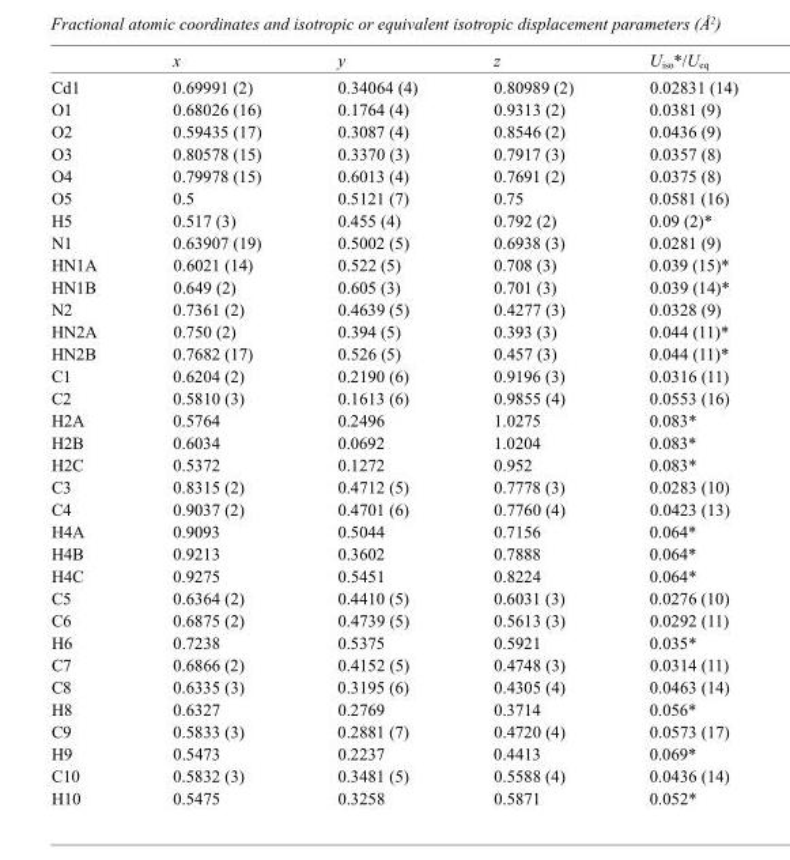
<table><thead><tr><td></td><td>x</td><td>y</td><td>z</td><td>U<sub>iso</sub>*/U<sub>eq</sub></td></tr></thead><tbody><tr><td>Cd1</td><td>0.69991 (2)</td><td>0.34064 (4)</td><td>0.80989 (2)</td><td>0.02831 (14)</td></tr><tr><td>O1</td><td>0.68026 (16)</td><td>0.1764 (4)</td><td>0.9313 (2)</td><td>0.0381 (9)</td></tr><tr><td>O2</td><td>0.59435 (17)</td><td>0.3087 (4)</td><td>0.8546 (2)</td><td>0.0436 (9)</td></tr><tr><td>O3</td><td>0.80578 (15)</td><td>0.3370 (3)</td><td>0.7917 (3)</td><td>0.0357 (8)</td></tr><tr><td>O4</td><td>0.79978 (15)</td><td>0.6013 (4)</td><td>0.7691 (2)</td><td>0.0375 (8)</td></tr><tr><td>O5</td><td>0.5</td><td>0.5121 (7)</td><td>0.75</td><td>0.0581 (16)</td></tr><tr><td>H5</td><td>0.517 (3)</td><td>0.455 (4)</td><td>0.792 (2)</td><td>0.09 (2)*</td></tr><tr><td>N1</td><td>0.63907 (19)</td><td>0.5002 (5)</td><td>0.6938 (3)</td><td>0.0281 (9)</td></tr><tr><td>HN1A</td><td>0.6021 (14)</td><td>0.522 (5)</td><td>0.708 (3)</td><td>0.039 (15)*</td></tr><tr><td>HN1B</td><td>0.649 (2)</td><td>0.605 (3)</td><td>0.701 (3)</td><td>0.039 (14)*</td></tr><tr><td>N2</td><td>0.7361 (2)</td><td>0.4639 (5)</td><td>0.4277 (3)</td><td>0.0328 (9)</td></tr><tr><td>HN2A</td><td>0.750 (2)</td><td>0.394 (5)</td><td>0.393 (3)</td><td>0.044 (11)*</td></tr><tr><td>HN2B</td><td>0.7682 (17)</td><td>0.526 (5)</td><td>0.457 (3)</td><td>0.044 (11)*</td></tr><tr><td>C1</td><td>0.6204 (2)</td><td>0.2190 (6)</td><td>0.9196 (3)</td><td>0.0316 (11)</td></tr><tr><td>C2</td><td>0.5810 (3)</td><td>0.1613 (6)</td><td>0.9855 (4)</td><td>0.0553 (16)</td></tr><tr><td>H2A</td><td>0.5764</td><td>0.2496</td><td>1.0275</td><td>0.083*</td></tr><tr><td>H2B</td><td>0.6034</td><td>0.0692</td><td>1.0204</td><td>0.083*</td></tr><tr><td>H2C</td><td>0.5372</td><td>0.1272</td><td>0.952</td><td>0.083*</td></tr><tr><td>C3</td><td>0.8315 (2)</td><td>0.4712 (5)</td><td>0.7778 (3)</td><td>0.0283 (10)</td></tr><tr><td>C4</td><td>0.9037 (2)</td><td>0.4701 (6)</td><td>0.7760 (4)</td><td>0.0423 (13)</td></tr><tr><td>H4A</td><td>0.9093</td><td>0.5044</td><td>0.7156</td><td>0.064*</td></tr><tr><td>H4B</td><td>0.9213</td><td>0.3602</td><td>0.7888</td><td>0.064*</td></tr><tr><td>H4C</td><td>0.9275</td><td>0.5451</td><td>0.8224</td><td>0.064*</td></tr><tr><td>C5</td><td>0.6364 (2)</td><td>0.4410 (5)</td><td>0.6031 (3)</td><td>0.0276 (10)</td></tr><tr><td>C6</td><td>0.6875 (2)</td><td>0.4739 (5)</td><td>0.5613 (3)</td><td>0.0292 (11)</td></tr><tr><td>H6</td><td>0.7238</td><td>0.5375</td><td>0.5921</td><td>0.035*</td></tr><tr><td>C7</td><td>0.6866 (2)</td><td>0.4152 (5)</td><td>0.4748 (3)</td><td>0.0314 (11)</td></tr><tr><td>C8</td><td>0.6335 (3)</td><td>0.3195 (6)</td><td>0.4305 (4)</td><td>0.0463 (14)</td></tr><tr><td>H8</td><td>0.6327</td><td>0.2769</td><td>0.3714</td><td>0.056*</td></tr><tr><td>C9</td><td>0.5833 (3)</td><td>0.2881 (7)</td><td>0.4720 (4)</td><td>0.0573 (17)</td></tr><tr><td>H9</td><td>0.5473</td><td>0.2237</td><td>0.4413</td><td>0.069*</td></tr><tr><td>C10</td><td>0.5832 (3)</td><td>0.3481 (5)</td><td>0.5588 (4)</td><td>0.0436 (14)</td></tr><tr><td>H10</td><td>0.5475</td><td>0.3258</td><td>0.5871</td><td>0.052*</td></tr></tbody></table>